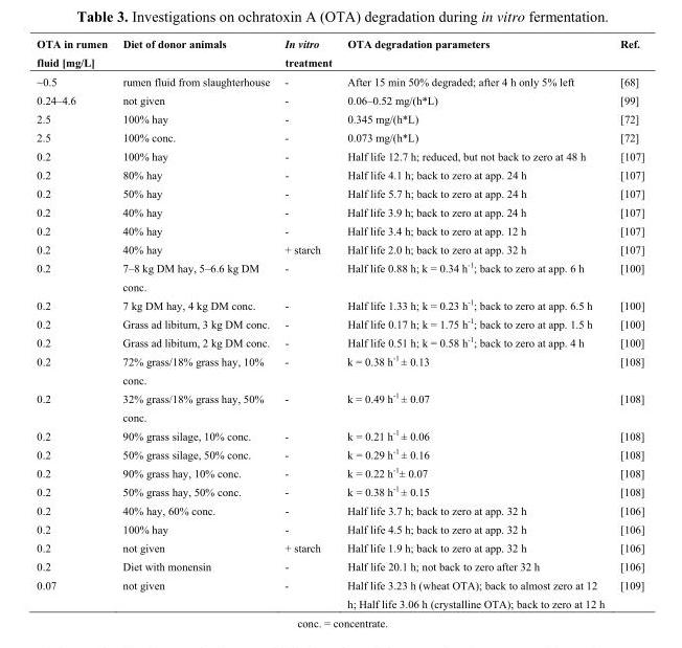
<table><thead><tr><td>OTA in rumen fluid [mg/L]</td><td>Diet of donor animals</td><td>In vitro treatment</td><td>OTA degradation parameters</td><td>Ref.</td></tr></thead><tbody><tr><td>~0.5</td><td>rumen fluid from slaughterhouse</td><td>-</td><td>After 15 min 50% degraded; after 4 h only 5% left</td><td>[68]</td></tr><tr><td>0.24–4.6</td><td>not given</td><td>-</td><td>0.06–0.52 mg/(h*L)</td><td>[99]</td></tr><tr><td>2.5</td><td>100% hay</td><td>-</td><td>0.345 mg/(h*L)</td><td>[72]</td></tr><tr><td>2.5</td><td>100% conc.</td><td>-</td><td>0.073 mg/(h*L)</td><td>[72]</td></tr><tr><td>0.2</td><td>100% hay</td><td>-</td><td>Half life 12.7 h; reduced, but not back to zero at 48 h</td><td>[107]</td></tr><tr><td>0.2</td><td>80% hay</td><td>-</td><td>Half life 4.1 h; back to zero at app. 24 h</td><td>[107]</td></tr><tr><td>0.2</td><td>50% hay</td><td>-</td><td>Half life 5.7 h; back to zero at app. 24 h</td><td>[107]</td></tr><tr><td>0.2</td><td>40% hay</td><td>-</td><td>Half life 3.9 h; back to zero at app. 24 h</td><td>[107]</td></tr><tr><td>0.2</td><td>40% hay</td><td>-</td><td>Half life 3.4 h; back to zero at app. 12 h</td><td>[107]</td></tr><tr><td>0.2</td><td>40% hay</td><td>+ starch</td><td>Half life 2.0 h; back to zero at app. 32 h</td><td>[107]</td></tr><tr><td>0.2</td><td>7–8 kg DM hay, 5–6.6 kg DM conc.</td><td>-</td><td>Half life 0.88 h; k = 0.34 h<sup>-1</sup>; back to zero at app. 6 h</td><td>[100]</td></tr><tr><td>0.2</td><td>7 kg DM hay, 4 kg DM conc.</td><td>-</td><td>Half life 1.33 h; k = 0.23 h<sup>-1</sup>; back to zero at app. 6.5 h</td><td>[100]</td></tr><tr><td>0.2</td><td>Grass ad libitum, 3 kg DM conc.</td><td>-</td><td>Half life 0.17 h; k = 1.75 h<sup>-1</sup>; back to zero at app. 1.5 h</td><td>[100]</td></tr><tr><td>0.2</td><td>Grass ad libitum, 2 kg DM conc.</td><td>-</td><td>Half life 0.51 h; k = 0.58 h<sup>-1</sup>; back to zero at app. 4 h</td><td>[100]</td></tr><tr><td>0.2</td><td>72% grass/18% grass hay, 10% conc.</td><td>-</td><td>k = 0.38 h<sup>-1</sup> ± 0.13</td><td>[108]</td></tr><tr><td>0.2</td><td>32% grass/18% grass hay, 50% conc.</td><td>-</td><td>k = 0.49 h<sup>-1</sup> ± 0.07</td><td>[108]</td></tr><tr><td>0.2</td><td>90% grass silage, 10% conc.</td><td>-</td><td>k = 0.21 h<sup>-1</sup> ± 0.06</td><td>[108]</td></tr><tr><td>0.2</td><td>50% grass silage, 50% conc.</td><td>-</td><td>k = 0.29 h<sup>-1</sup> ± 0.16</td><td>[108]</td></tr><tr><td>0.2</td><td>90% grass hay, 10% conc.</td><td>-</td><td>k = 0.22 h<sup>-1</sup>± 0.07</td><td>[108]</td></tr><tr><td>0.2</td><td>50% grass hay, 50% conc.</td><td>-</td><td>k = 0.38 h<sup>-1</sup> ± 0.15</td><td>[108]</td></tr><tr><td>0.2</td><td>40% hay, 60% conc.</td><td>-</td><td>Half life 3.7 h; back to zero at app. 32 h</td><td>[106]</td></tr><tr><td>0.2</td><td>100% hay</td><td>-</td><td>Half life 4.5 h; back to zero at app. 32 h</td><td>[106]</td></tr><tr><td>0.2</td><td>not given</td><td>+ starch</td><td>Half life 1.9 h; back to zero at app. 32 h</td><td>[106]</td></tr><tr><td>0.2</td><td>Diet with monensin</td><td>-</td><td>Half life 20.1 h; not back to zero after 32 h</td><td>[106]</td></tr><tr><td>0.07</td><td>not given</td><td>-</td><td>Half life 3.23 h (wheat OTA); back to almost zero at 12 h; Half life 3.06 h (crystalline OTA); back to zero at 12 h</td><td>[109]</td></tr></tbody></table>